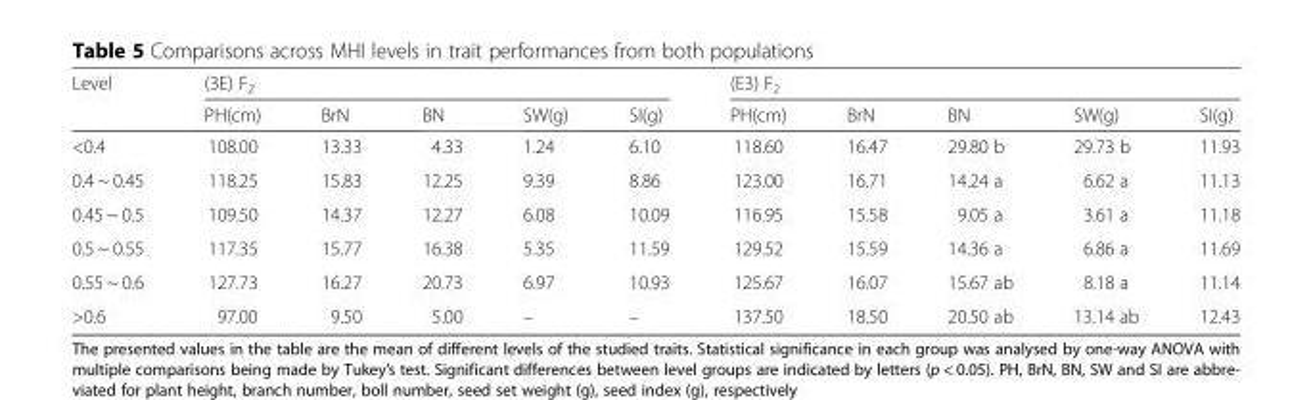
<table><thead><tr><td rowspan="2">Level</td><td colspan="5">(3E) F<sub>2</sub></td><td colspan="5">(E3) F<sub>2</sub></td></tr><tr><td>PH(cm)</td><td>BrN</td><td>BN</td><td>SW(g)</td><td>SI(g)</td><td>PH(cm)</td><td>BrN</td><td>BN</td><td>SW(g)</td><td>SI(g)</td></tr></thead><tbody><tr><td>&lt;0.4</td><td>108.00</td><td>13.33</td><td>4.33</td><td>1.24</td><td>6.10</td><td>118.60</td><td>16.47</td><td>29.80 b</td><td>29.73 b</td><td>11.93</td></tr><tr><td>0.4 ~ 0.45</td><td>118.25</td><td>15.83</td><td>12.25</td><td>9.39</td><td>8.86</td><td>123.00</td><td>16.71</td><td>14.24 a</td><td>6.62 a</td><td>11.13</td></tr><tr><td>0.45 ~ 0.5</td><td>109.50</td><td>14.37</td><td>12.27</td><td>6.08</td><td>10.09</td><td>116.95</td><td>15.58</td><td>9.05 a</td><td>3.61 a</td><td>11.18</td></tr><tr><td>0.5 ~ 0.55</td><td>117.35</td><td>15.77</td><td>16.38</td><td>5.35</td><td>11.59</td><td>129.52</td><td>15.59</td><td>14.36 a</td><td>6.86 a</td><td>11.69</td></tr><tr><td>0.55 ~ 0.6</td><td>127.73</td><td>16.27</td><td>20.73</td><td>6.97</td><td>10.93</td><td>125.67</td><td>16.07</td><td>15.67 ab</td><td>8.18 a</td><td>11.14</td></tr><tr><td>&gt;0.6</td><td>97.00</td><td>9.50</td><td>5.00</td><td>–</td><td>–</td><td>137.50</td><td>18.50</td><td>20.50 ab</td><td>13.14 ab</td><td>12.43</td></tr></tbody></table>